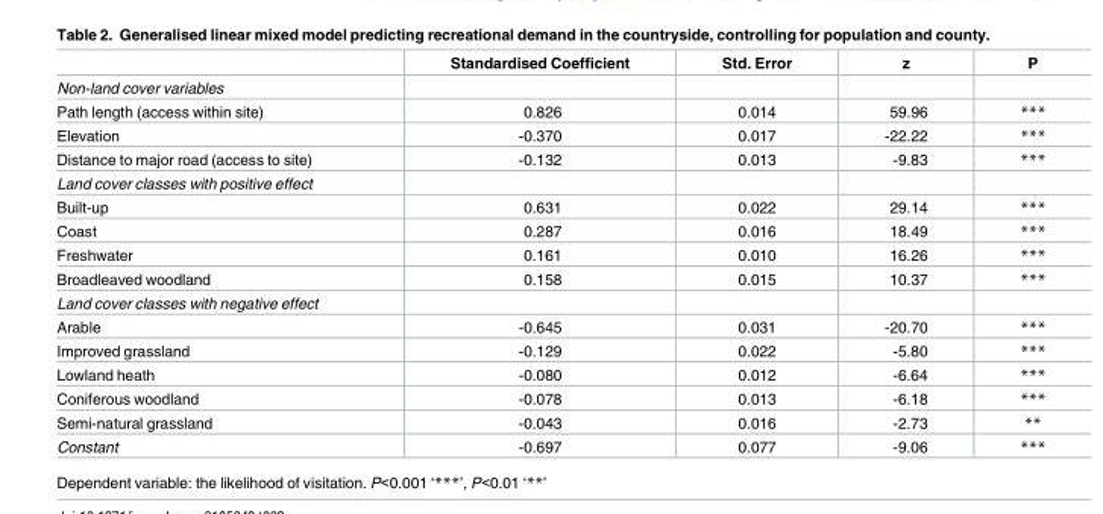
<table><thead><tr><td></td><td>Standardised Coefficient</td><td>Std. Error</td><td>z</td><td>P</td></tr></thead><tbody><tr><td colspan="5">Non-land cover variables</td></tr><tr><td>Path length (access within site)</td><td>0.826</td><td>0.014</td><td>59.96</td><td>***</td></tr><tr><td>Elevation</td><td>-0.370</td><td>0.017</td><td>-22.22</td><td>***</td></tr><tr><td>Distance to major road (access to site)</td><td>-0.132</td><td>0.013</td><td>-9.83</td><td>***</td></tr><tr><td colspan="5">Land cover classes with positive effect</td></tr><tr><td>Built-up</td><td>0.631</td><td>0.022</td><td>29.14</td><td>***</td></tr><tr><td>Coast</td><td>0.287</td><td>0.016</td><td>18.49</td><td>***</td></tr><tr><td>Freshwater</td><td>0.161</td><td>0.010</td><td>16.26</td><td>***</td></tr><tr><td>Broadleaved woodland</td><td>0.158</td><td>0.015</td><td>10.37</td><td>***</td></tr><tr><td colspan="5">Land cover classes with negative effect</td></tr><tr><td>Arable</td><td>-0.645</td><td>0.031</td><td>-20.70</td><td>***</td></tr><tr><td>Improved grassland</td><td>-0.129</td><td>0.022</td><td>-5.80</td><td>***</td></tr><tr><td>Lowland heath</td><td>-0.080</td><td>0.012</td><td>-6.64</td><td>***</td></tr><tr><td>Coniferous woodland</td><td>-0.078</td><td>0.013</td><td>-6.18</td><td>***</td></tr><tr><td>Semi-natural grassland</td><td>-0.043</td><td>0.016</td><td>-2.73</td><td>**</td></tr><tr><td>Constant</td><td>-0.697</td><td>0.077</td><td>-9.06</td><td>***</td></tr></tbody></table>